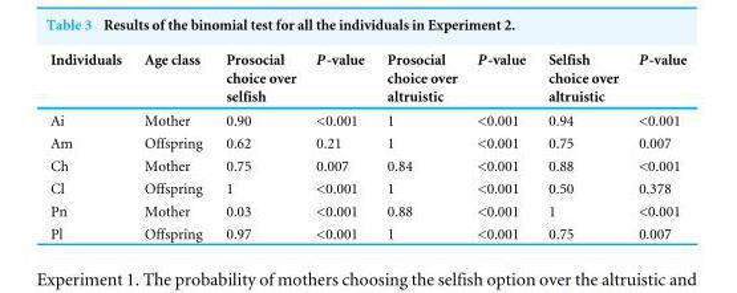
<table><thead><tr><td>Individuals</td><td>Age class</td><td>Prosocial choice over selfish</td><td>P-value</td><td>Prosocial choice over altruistic</td><td>P-value</td><td>Selfish choice over altruistic</td><td>P-value</td></tr></thead><tbody><tr><td>Ai</td><td>Mother</td><td>0.90</td><td>&lt;0.001</td><td>1</td><td>&lt;0.001</td><td>0.94</td><td>&lt;0.001</td></tr><tr><td>Am</td><td>Offspring</td><td>0.62</td><td>0.21</td><td>1</td><td>&lt;0.001</td><td>0.75</td><td>0.007</td></tr><tr><td>Ch</td><td>Mother</td><td>0.75</td><td>0.007</td><td>0.84</td><td>&lt;0.001</td><td>0.88</td><td>&lt;0.001</td></tr><tr><td>Cl</td><td>Offspring</td><td>1</td><td>&lt;0.001</td><td>1</td><td>&lt;0.001</td><td>0.50</td><td>0.378</td></tr><tr><td>Pn</td><td>Mother</td><td>0.03</td><td>&lt;0.001</td><td>0.88</td><td>&lt;0.001</td><td>1</td><td>&lt;0.001</td></tr><tr><td>Pl</td><td>Offspring</td><td>0.97</td><td>&lt;0.001</td><td>1</td><td>&lt;0.001</td><td>0.75</td><td>0.007</td></tr></tbody></table>